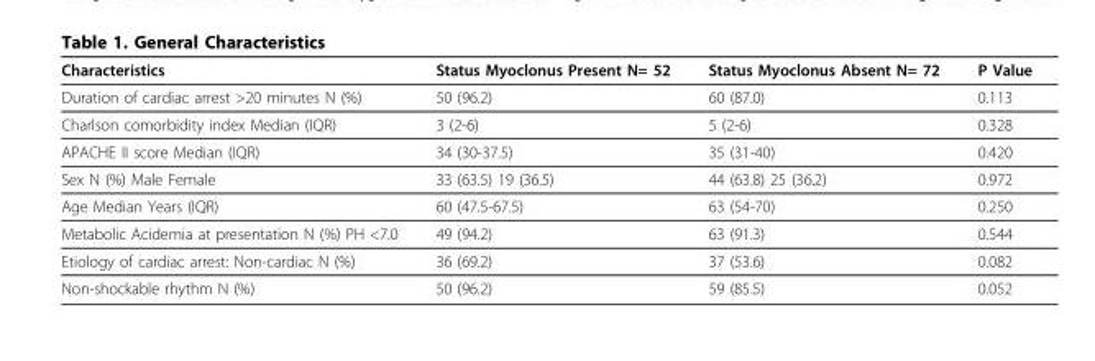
<table><thead><tr><td>Characteristics</td><td>Status Myoclonus Present N= 52</td><td>Status Myoclonus Absent N= 72</td><td>P Value</td></tr></thead><tbody><tr><td>Duration of cardiac arrest &gt;20 minutes N (%)</td><td>50 (96.2)</td><td>60 (87.0)</td><td>0.113</td></tr><tr><td>Charlson comorbidity index Median (IQR)</td><td>3 (2-6)</td><td>5 (2-6)</td><td>0.328</td></tr><tr><td>APACHE II score Median (IQR)</td><td>34 (30-37.5)</td><td>35 (31-40)</td><td>0.420</td></tr><tr><td>Sex N (%) Male Female</td><td>33 (63.5) 19 (36.5)</td><td>44 (63.8) 25 (36.2)</td><td>0.972</td></tr><tr><td>Age Median Years (IQR)</td><td>60 (47.5-67.5)</td><td>63 (54-70)</td><td>0.250</td></tr><tr><td>Metabolic Acidemia at presentation N (%) PH &lt;7.0</td><td>49 (94.2)</td><td>63 (91.3)</td><td>0.544</td></tr><tr><td>Etiology of cardiac arrest: Non-cardiac N (%)</td><td>36 (69.2)</td><td>37 (53.6)</td><td>0.082</td></tr><tr><td>Non-shockable rhythm N (%)</td><td>50 (96.2)</td><td>59 (85.5)</td><td>0.052</td></tr></tbody></table>